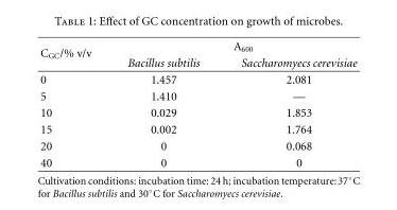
<table><thead><tr><td rowspan="2">C<sub>GC</sub>/% v/v</td><td colspan="2">A<sub>600</sub></td></tr><tr><td>Bacillus subtilis</td><td>Saccharomyecs cerevisiae</td></tr></thead><tbody><tr><td>0</td><td>1.457</td><td>2.081</td></tr><tr><td>5</td><td>1.410</td><td>—</td></tr><tr><td>10</td><td>0.029</td><td>1.853</td></tr><tr><td>15</td><td>0.002</td><td>1.764</td></tr><tr><td>20</td><td>0</td><td>0.068</td></tr><tr><td>40</td><td>0</td><td>0</td></tr></tbody></table>